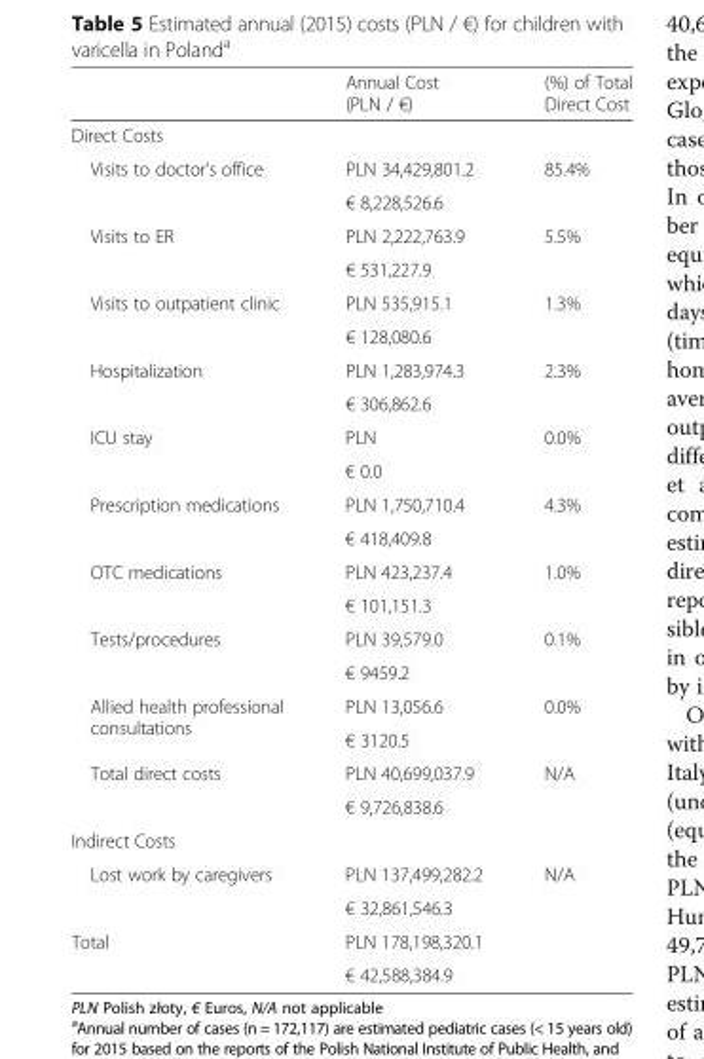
<table><thead><tr><td></td><td>Annual Cost (PLN / €)</td><td>(%) of Total Direct Cost</td></tr></thead><tbody><tr><td colspan="3">Direct Costs</td></tr><tr><td rowspan="2">Visits to doctor’s office</td><td>PLN 34,429,801.2</td><td rowspan="2">85.4%</td></tr><tr><td>€ 8,228,526.6</td></tr><tr><td rowspan="2">Visits to ER</td><td>PLN 2,222,763.9</td><td rowspan="2">5.5%</td></tr><tr><td>€ 531,227.9</td></tr><tr><td rowspan="2">Visits to outpatient clinic</td><td>PLN 535,915.1</td><td rowspan="2">1.3%</td></tr><tr><td>€ 128,080.6</td></tr><tr><td rowspan="2">Hospitalization</td><td>PLN 1,283,974.3</td><td rowspan="2">2.3%</td></tr><tr><td>€ 306,862.6</td></tr><tr><td rowspan="2">ICU stay</td><td>PLN</td><td rowspan="2">0.0%</td></tr><tr><td>€ 0.0</td></tr><tr><td rowspan="2">Prescription medications</td><td>PLN 1,750,710.4</td><td rowspan="2">4.3%</td></tr><tr><td>€ 418,409.8</td></tr><tr><td rowspan="2">OTC medications</td><td>PLN 423,237.4</td><td rowspan="2">1.0%</td></tr><tr><td>€ 101,151.3</td></tr><tr><td rowspan="2">Tests/procedures</td><td>PLN 39,579.0</td><td rowspan="2">0.1%</td></tr><tr><td>€ 9459.2</td></tr><tr><td rowspan="2">Allied health professional consultations</td><td>PLN 13,056.6</td><td rowspan="2">0.0%</td></tr><tr><td>€ 3120.5</td></tr><tr><td rowspan="2">Total direct costs</td><td>PLN 40,699,037.9</td><td rowspan="2">N/A</td></tr><tr><td>€ 9,726,838.6</td></tr><tr><td colspan="3">Indirect Costs</td></tr><tr><td rowspan="2">Lost work by caregivers</td><td>PLN 137,499,282.2</td><td rowspan="2">N/A</td></tr><tr><td>€ 32,861,546.3</td></tr><tr><td rowspan="2">Total</td><td>PLN 178,198,320.1</td><td rowspan="2"></td></tr><tr><td>€ 42,588,384.9</td></tr></tbody></table>